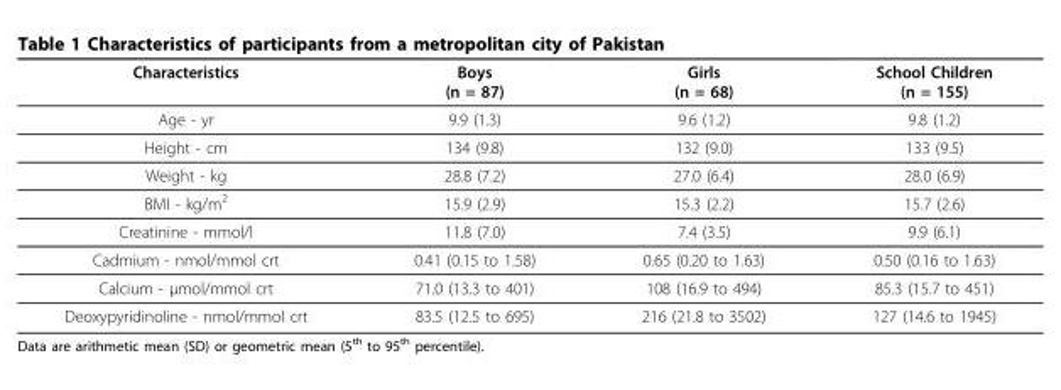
<table><thead><tr><td>Characteristics</td><td>Boys (n = 87)</td><td>Girls (n = 68)</td><td>School Children (n = 155)</td></tr></thead><tbody><tr><td>Age - yr</td><td>9.9 (1.3)</td><td>9.6 (1.2)</td><td>9.8 (1.2)</td></tr><tr><td>Height - cm</td><td>134 (9.8)</td><td>132 (9.0)</td><td>133 (9.5)</td></tr><tr><td>Weight - kg</td><td>28.8 (7.2)</td><td>27.0 (6.4)</td><td>28.0 (6.9)</td></tr><tr><td>BMI - kg/m<sup>2</sup></td><td>15.9 (2.9)</td><td>15.3 (2.2)</td><td>15.7 (2.6)</td></tr><tr><td>Creatinine - mmol/l</td><td>11.8 (7.0)</td><td>7.4 (3.5)</td><td>9.9 (6.1)</td></tr><tr><td>Cadmium - nmol/mmol crt</td><td>0.41 (0.15 to 1.58)</td><td>0.65 (0.20 to 1.63)</td><td>0.50 (0.16 to 1.63)</td></tr><tr><td>Calcium - μmol/mmol crt</td><td>71.0 (13.3 to 401)</td><td>108 (16.9 to 494)</td><td>85.3 (15.7 to 451)</td></tr><tr><td>Deoxypyridinoline - nmol/mmol crt</td><td>83.5 (12.5 to 695)</td><td>216 (21.8 to 3502)</td><td>127 (14.6 to 1945)</td></tr></tbody></table>